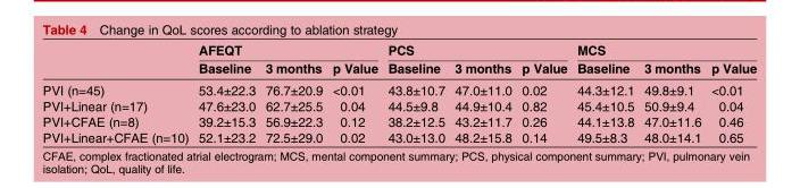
<table><thead><tr><td rowspan="2"></td><td colspan="3">AFEQT</td><td colspan="3">PCS</td><td colspan="3">MCS</td></tr><tr><td>Baseline</td><td>3 months</td><td>p Value</td><td>Baseline</td><td>3 months</td><td>p Value</td><td>Baseline</td><td>3 months</td><td>p Value</td></tr></thead><tbody><tr><td>PVI (n=45)</td><td>53.4±22.3</td><td>76.7±20.9</td><td>&lt;0.01</td><td>43.8±10.7</td><td>47.0±11.0</td><td>0.02</td><td>44.3±12.1</td><td>49.8±9.1</td><td>&lt;0.01</td></tr><tr><td>PVI+Linear (n=17)</td><td>47.6±23.0</td><td>62.7±25.5</td><td>0.04</td><td>44.5±9.8</td><td>44.9±10.4</td><td>0.82</td><td>45.4±10.5</td><td>50.9±9.4</td><td>0.04</td></tr><tr><td>PVI+CFAE (n=8)</td><td>39.2±15.3</td><td>56.9±22.3</td><td>0.12</td><td>38.2±12.5</td><td>43.2±11.7</td><td>0.26</td><td>44.1±13.8</td><td>47.0±11.6</td><td>0.46</td></tr><tr><td>PVI+Linear+CFAE (n=10)</td><td>52.1±23.2</td><td>72.5±29.0</td><td>0.02</td><td>43.0±13.0</td><td>48.2±15.8</td><td>0.14</td><td>49.5±8.3</td><td>48.0±14.1</td><td>0.65</td></tr></tbody></table>